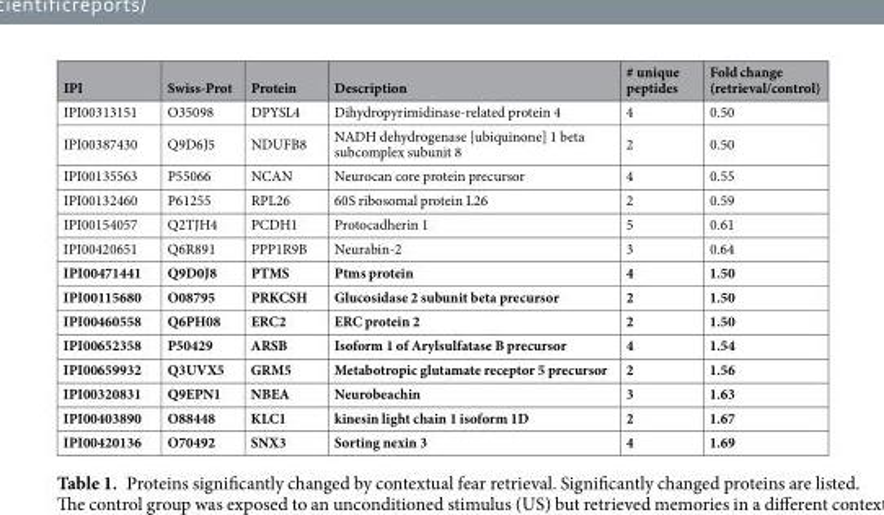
<table><thead><tr><td>IPI</td><td>Swiss-Prot</td><td>Protein</td><td>Description</td><td># unique peptides</td><td>Fold change (retrieval/control)</td></tr></thead><tbody><tr><td>IPI00313151</td><td>O35098</td><td>DPYSL4</td><td>Dihydropyrimidinase-related protein 4</td><td>4</td><td>0.50</td></tr><tr><td>IPI00387430</td><td>Q9D6J5</td><td>NDUFB8</td><td>NADH dehydrogenase [ubiquinone] 1 beta subcomplex subunit 8</td><td>2</td><td>0.50</td></tr><tr><td>IPI00135563</td><td>P55066</td><td>NCAN</td><td>Neurocan core protein precursor</td><td>4</td><td>0.55</td></tr><tr><td>IPI00132460</td><td>P61255</td><td>RPL26</td><td>60S ribosomal protein L26</td><td>2</td><td>0.59</td></tr><tr><td>IPI00154057</td><td>Q2TJH4</td><td>PCDH1</td><td>Protocadherin 1</td><td>5</td><td>0.61</td></tr><tr><td>IPI00420651</td><td>Q6R891</td><td>PPP1R9B</td><td>Neurabin-2</td><td>3</td><td>0.64</td></tr><tr><td>IPI00471441</td><td>Q9D0J8</td><td>PTMS</td><td>Ptms protein</td><td>4</td><td>1.50</td></tr><tr><td>IPI00115680</td><td>O08795</td><td>PRKCSH</td><td>Glucosidase 2 subunit beta precursor</td><td>2</td><td>1.50</td></tr><tr><td>IPI00460558</td><td>Q6PH08</td><td>ERC2</td><td>ERC protein 2</td><td>2</td><td>1.50</td></tr><tr><td>IPI00652358</td><td>P50429</td><td>ARSB</td><td>Isoform 1 of Arylsulfatase B precursor</td><td>4</td><td>1.54</td></tr><tr><td>IPI00659932</td><td>Q3UVX5</td><td>GRM5</td><td>Metabotropic glutamate receptor 5 precursor</td><td>2</td><td>1.56</td></tr><tr><td>IPI00320831</td><td>Q9EPN1</td><td>NBEA</td><td>Neurobeachin</td><td>3</td><td>1.63</td></tr><tr><td>IPI00403890</td><td>O88448</td><td>KLC1</td><td>kinesin light chain 1 isoform 1D</td><td>2</td><td>1.67</td></tr><tr><td>IPI00420136</td><td>O70492</td><td>SNX3</td><td>Sorting nexin 3</td><td>4</td><td>1.69</td></tr></tbody></table>